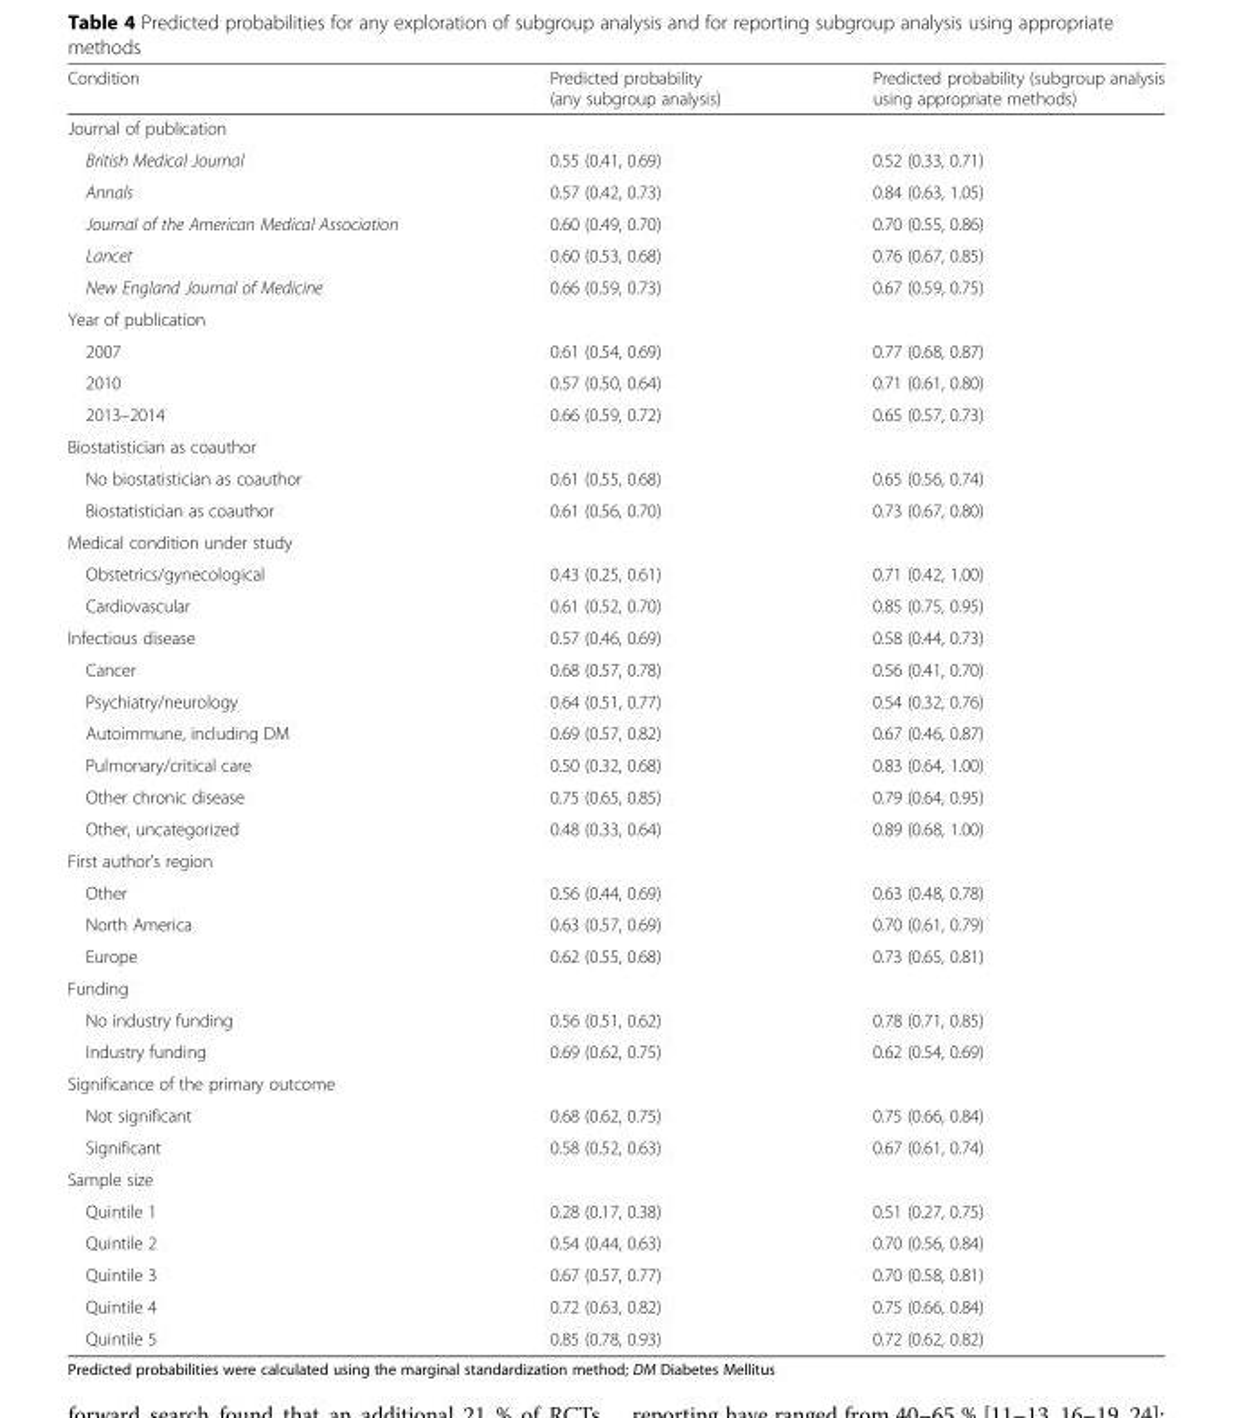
<table><thead><tr><td>Condition</td><td>Predicted probability (any subgroup analysis)</td><td>Predicted probability (subgroup analysis using appropriate methods)</td></tr></thead><tbody><tr><td colspan="3">Journal of publication</td></tr><tr><td>British Medical Journal</td><td>0.55 (0.41, 0.69)</td><td>0.52 (0.33, 0.71)</td></tr><tr><td>Annals</td><td>0.57 (0.42, 0.73)</td><td>0.84 (0.63, 1.05)</td></tr><tr><td>Journal of the American Medical Association</td><td>0.60 (0.49, 0.70)</td><td>0.70 (0.55, 0.86)</td></tr><tr><td>Lancet</td><td>0.60 (0.53, 0.68)</td><td>0.76 (0.67, 0.85)</td></tr><tr><td>New England Journal of Medicine</td><td>0.66 (0.59, 0.73)</td><td>0.67 (0.59, 0.75)</td></tr><tr><td colspan="3">Year of publication</td></tr><tr><td>2007</td><td>0.61 (0.54, 0.69)</td><td>0.77 (0.68, 0.87)</td></tr><tr><td>2010</td><td>0.57 (0.50, 0.64)</td><td>0.71 (0.61, 0.80)</td></tr><tr><td>2013–2014</td><td>0.66 (0.59, 0.72)</td><td>0.65 (0.57, 0.73)</td></tr><tr><td colspan="3">Biostatistician as coauthor</td></tr><tr><td>No biostatistician as coauthor</td><td>0.61 (0.55, 0.68)</td><td>0.65 (0.56, 0.74)</td></tr><tr><td>Biostatistician as coauthor</td><td>0.61 (0.56, 0.70)</td><td>0.73 (0.67, 0.80)</td></tr><tr><td colspan="3">Medical condition under study</td></tr><tr><td>Obstetrics/gynecological</td><td>0.43 (0.25, 0.61)</td><td>0.71 (0.42, 1.00)</td></tr><tr><td>Cardiovascular</td><td>0.61 (0.52, 0.70)</td><td>0.85 (0.75, 0.95)</td></tr><tr><td>Infectious disease</td><td>0.57 (0.46, 0.69)</td><td>0.58 (0.44, 0.73)</td></tr><tr><td>Cancer</td><td>0.68 (0.57, 0.78)</td><td>0.56 (0.41, 0.70)</td></tr><tr><td>Psychiatry/neurology</td><td>0.64 (0.51, 0.77)</td><td>0.54 (0.32, 0.76)</td></tr><tr><td>Autoimmune, including DM</td><td>0.69 (0.57, 0.82)</td><td>0.67 (0.46, 0.87)</td></tr><tr><td>Pulmonary/critical care</td><td>0.50 (0.32, 0.68)</td><td>0.83 (0.64, 1.00)</td></tr><tr><td>Other chronic disease</td><td>0.75 (0.65, 0.85)</td><td>0.79 (0.64, 0.95)</td></tr><tr><td>Other, uncategorized</td><td>0.48 (0.33, 0.64)</td><td>0.89 (0.68, 1.00)</td></tr><tr><td colspan="3">First author’s region</td></tr><tr><td>Other</td><td>0.56 (0.44, 0.69)</td><td>0.63 (0.48, 0.78)</td></tr><tr><td>North America</td><td>0.63 (0.57, 0.69)</td><td>0.70 (0.61, 0.79)</td></tr><tr><td>Europe</td><td>0.62 (0.55, 0.68)</td><td>0.73 (0.65, 0.81)</td></tr><tr><td colspan="3">Funding</td></tr><tr><td>No industry funding</td><td>0.56 (0.51, 0.62)</td><td>0.78 (0.71, 0.85)</td></tr><tr><td>Industry funding</td><td>0.69 (0.62, 0.75)</td><td>0.62 (0.54, 0.69)</td></tr><tr><td colspan="3">Significance of the primary outcome</td></tr><tr><td>Not significant</td><td>0.68 (0.62, 0.75)</td><td>0.75 (0.66, 0.84)</td></tr><tr><td>Significant</td><td>0.58 (0.52, 0.63)</td><td>0.67 (0.61, 0.74)</td></tr><tr><td colspan="3">Sample size</td></tr><tr><td>Quintile 1</td><td>0.28 (0.17, 0.38)</td><td>0.51 (0.27, 0.75)</td></tr><tr><td>Quintile 2</td><td>0.54 (0.44, 0.63)</td><td>0.70 (0.56, 0.84)</td></tr><tr><td>Quintile 3</td><td>0.67 (0.57, 0.77)</td><td>0.70 (0.58, 0.81)</td></tr><tr><td>Quintile 4</td><td>0.72 (0.63, 0.82)</td><td>0.75 (0.66, 0.84)</td></tr><tr><td>Quintile 5</td><td>0.85 (0.78, 0.93)</td><td>0.72 (0.62, 0.82)</td></tr></tbody></table>